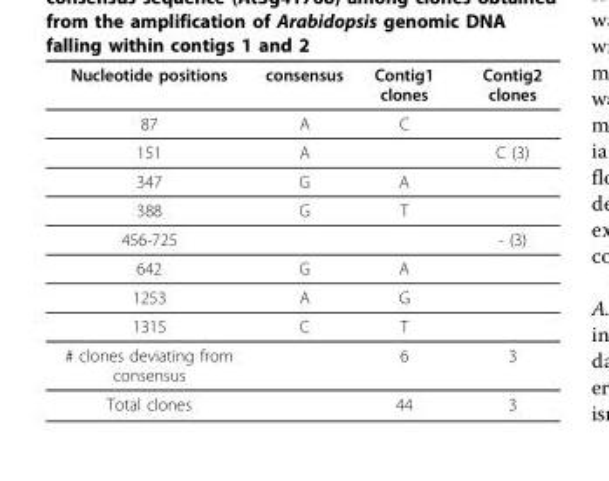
<table><thead><tr><td>Nucleotide positions</td><td>consensus</td><td>Contig1 clones</td><td>Contig2 clones</td></tr></thead><tbody><tr><td>87</td><td>A</td><td>C</td><td></td></tr><tr><td>151</td><td>A</td><td></td><td>C (3)</td></tr><tr><td>347</td><td>G</td><td>A</td><td></td></tr><tr><td>388</td><td>G</td><td>T</td><td></td></tr><tr><td>456-725</td><td></td><td></td><td>- (3)</td></tr><tr><td>642</td><td>G</td><td>A</td><td></td></tr><tr><td>1253</td><td>A</td><td>G</td><td></td></tr><tr><td>1315</td><td>C</td><td>T</td><td></td></tr><tr><td># clones deviating from consensus</td><td></td><td>6</td><td>3</td></tr><tr><td>Total clones</td><td></td><td>44</td><td>3</td></tr></tbody></table>